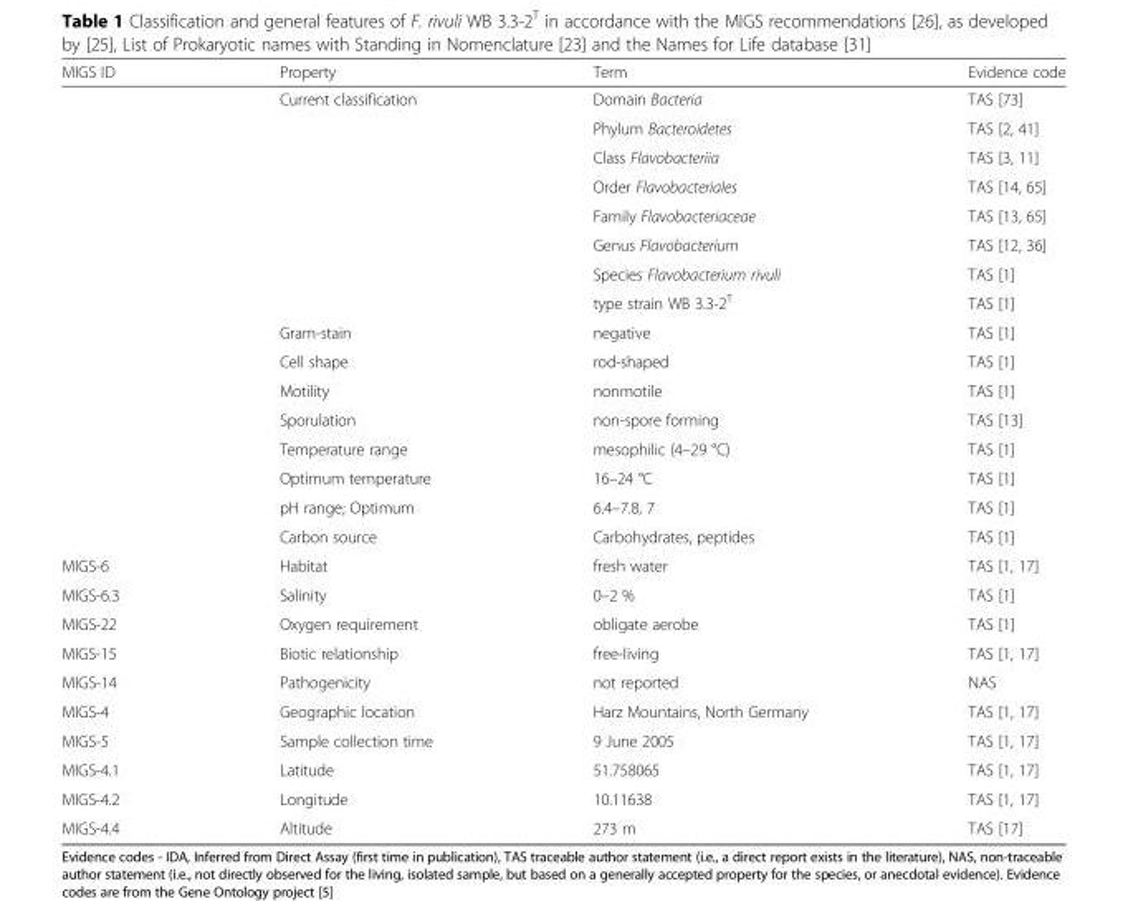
<table><thead><tr><td>MIGS ID</td><td>Property</td><td>Term</td><td>Evidence code</td></tr></thead><tbody><tr><td></td><td rowspan="8">Current classification</td><td>Domain Bacteria</td><td>TAS [73]</td></tr><tr><td></td><td>Phylum Bacteroidetes</td><td>TAS [2, 41]</td></tr><tr><td></td><td>Class Flavobacteriia</td><td>TAS [3, 11]</td></tr><tr><td></td><td>Order Flavobacteriales</td><td>TAS [14, 65]</td></tr><tr><td></td><td>Family Flavobacteriaceae</td><td>TAS [13, 65]</td></tr><tr><td></td><td>Genus Flavobacterium</td><td>TAS [12, 36]</td></tr><tr><td></td><td>Species Flavobacterium rivuli</td><td>TAS [1]</td></tr><tr><td></td><td>type strain WB 3.3-2<sup>T</sup></td><td>TAS [1]</td></tr><tr><td></td><td>Gram-stain</td><td>negative</td><td>TAS [1]</td></tr><tr><td></td><td>Cell shape</td><td>rod-shaped</td><td>TAS [1]</td></tr><tr><td></td><td>Motility</td><td>nonmotile</td><td>TAS [1]</td></tr><tr><td></td><td>Sporulation</td><td>non-spore forming</td><td>TAS [13]</td></tr><tr><td></td><td>Temperature range</td><td>mesophilic (4–29 °C)</td><td>TAS [1]</td></tr><tr><td></td><td>Optimum temperature</td><td>16–24 °C</td><td>TAS [1]</td></tr><tr><td></td><td>pH range; Optimum</td><td>6.4–7.8, 7</td><td>TAS [1]</td></tr><tr><td></td><td>Carbon source</td><td>Carbohydrates, peptides</td><td>TAS [1]</td></tr><tr><td>MIGS-6</td><td>Habitat</td><td>fresh water</td><td>TAS [1, 17]</td></tr><tr><td>MIGS-6.3</td><td>Salinity</td><td>0–2 %</td><td>TAS [1]</td></tr><tr><td>MIGS-22</td><td>Oxygen requirement</td><td>obligate aerobe</td><td>TAS [1]</td></tr><tr><td>MIGS-15</td><td>Biotic relationship</td><td>free-living</td><td>TAS [1, 17]</td></tr><tr><td>MIGS-14</td><td>Pathogenicity</td><td>not reported</td><td>NAS</td></tr><tr><td>MIGS-4</td><td>Geographic location</td><td>Harz Mountains, North Germany</td><td>TAS [1, 17]</td></tr><tr><td>MIGS-5</td><td>Sample collection time</td><td>9 June 2005</td><td>TAS [1, 17]</td></tr><tr><td>MIGS-4.1</td><td>Latitude</td><td>51.758065</td><td>TAS [1, 17]</td></tr><tr><td>MIGS-4.2</td><td>Longitude</td><td>10.11638</td><td>TAS [1, 17]</td></tr><tr><td>MIGS-4.4</td><td>Altitude</td><td>273 m</td><td>TAS [17]</td></tr></tbody></table>